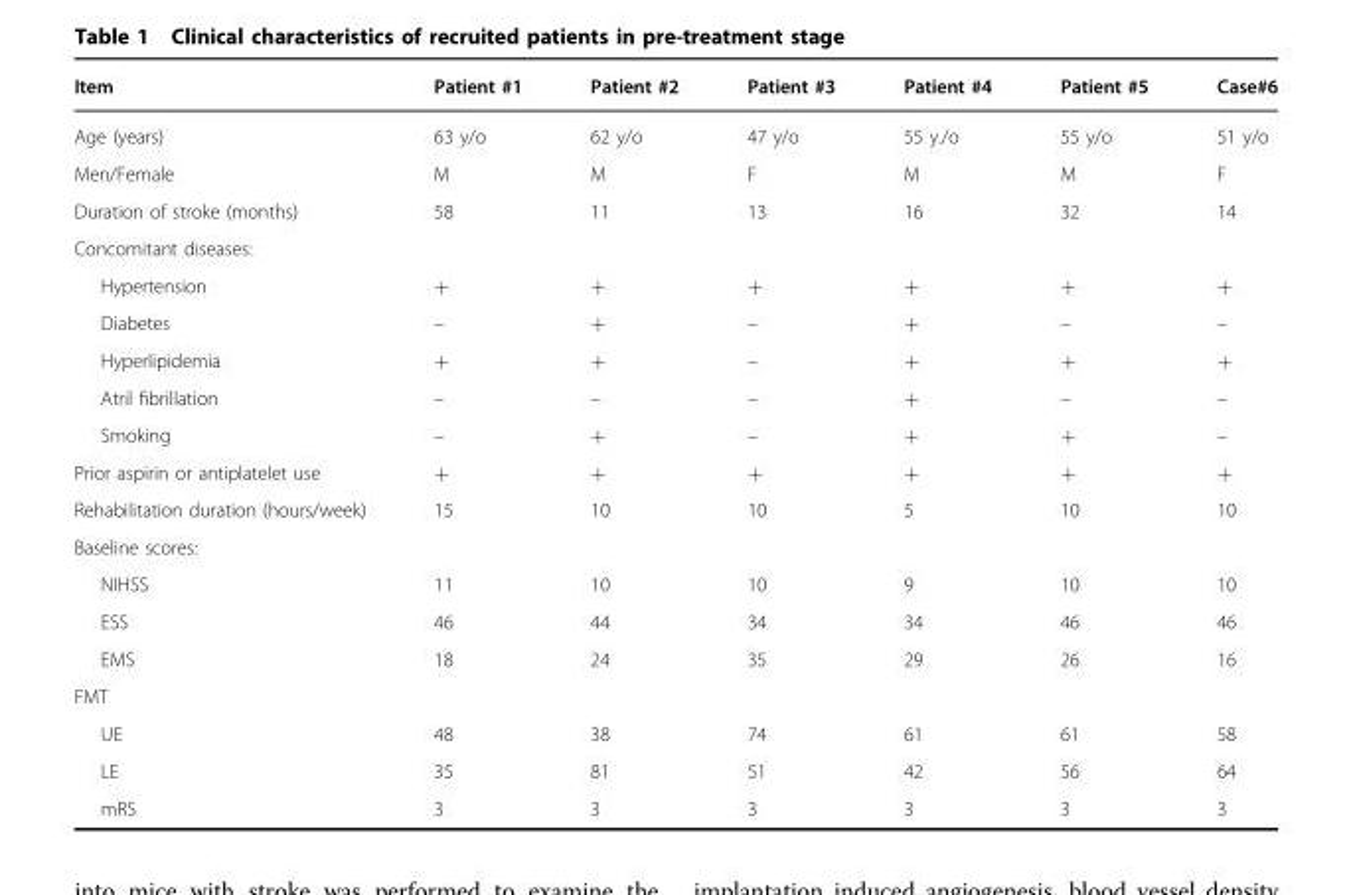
<table><thead><tr><td>Item</td><td>Patient #1</td><td>Patient #2</td><td>Patient #3</td><td>Patient #4</td><td>Patient #5</td><td>Case#6</td></tr></thead><tbody><tr><td>Age (years)</td><td>63 y/o</td><td>62 y/o</td><td>47 y/o</td><td>55 y./o</td><td>55 y/o</td><td>51 y/o</td></tr><tr><td>Men/Female</td><td>M</td><td>M</td><td>F</td><td>M</td><td>M</td><td>F</td></tr><tr><td>Duration of stroke (months)</td><td>58</td><td>11</td><td>13</td><td>16</td><td>32</td><td>14</td></tr><tr><td colspan="7">Concomitant diseases:</td></tr><tr><td>Hypertension</td><td>+</td><td>+</td><td>+</td><td>+</td><td>+</td><td>+</td></tr><tr><td>Diabetes</td><td>–</td><td>+</td><td>–</td><td>+</td><td>–</td><td>–</td></tr><tr><td>Hyperlipidemia</td><td>+</td><td>+</td><td>–</td><td>+</td><td>+</td><td>+</td></tr><tr><td>Atril fibrillation</td><td>–</td><td>–</td><td>–</td><td>+</td><td>–</td><td>–</td></tr><tr><td>Smoking</td><td>–</td><td>+</td><td>–</td><td>+</td><td>+</td><td>–</td></tr><tr><td>Prior aspirin or antiplatelet use</td><td>+</td><td>+</td><td>+</td><td>+</td><td>+</td><td>+</td></tr><tr><td>Rehabilitation duration (hours/week)</td><td>15</td><td>10</td><td>10</td><td>5</td><td>10</td><td>10</td></tr><tr><td colspan="7">Baseline scores:</td></tr><tr><td>NIHSS</td><td>11</td><td>10</td><td>10</td><td>9</td><td>10</td><td>10</td></tr><tr><td>ESS</td><td>46</td><td>44</td><td>34</td><td>34</td><td>46</td><td>46</td></tr><tr><td>EMS</td><td>18</td><td>24</td><td>35</td><td>29</td><td>26</td><td>16</td></tr><tr><td colspan="7">FMT</td></tr><tr><td>UE</td><td>48</td><td>38</td><td>74</td><td>61</td><td>61</td><td>58</td></tr><tr><td>LE</td><td>35</td><td>81</td><td>51</td><td>42</td><td>56</td><td>64</td></tr><tr><td>mRS</td><td>3</td><td>3</td><td>3</td><td>3</td><td>3</td><td>3</td></tr></tbody></table>